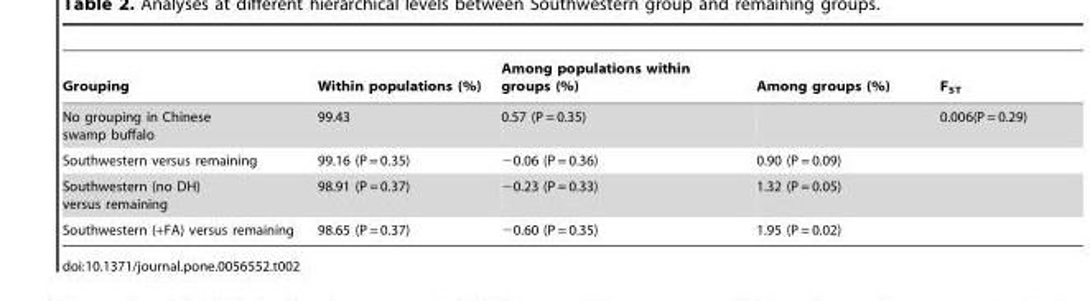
<table><thead><tr><td>Grouping</td><td>Within populations (%)</td><td>Among populations within groups (%)</td><td>Among groups (%)</td><td>F<sub>ST</sub></td></tr></thead><tbody><tr><td>No grouping in Chinese swamp buffalo</td><td>99.43</td><td>0.57 (P = 0.35)</td><td></td><td>0.006(P = 0.29)</td></tr><tr><td>Southwestern versus remaining</td><td>99.16 (P = 0.35)</td><td>−0.06 (P = 0.36)</td><td>0.90 (P = 0.09)</td><td></td></tr><tr><td>Southwestern (no DH) versus remaining</td><td>98.91 (P = 0.37)</td><td>−0.23 (P = 0.33)</td><td>1.32 (P = 0.05)</td><td></td></tr><tr><td>Southwestern (+FA) versus remaining</td><td>98.65 (P = 0.37)</td><td>−0.60 (P = 0.35)</td><td>1.95 (P = 0.02)</td><td></td></tr></tbody></table>